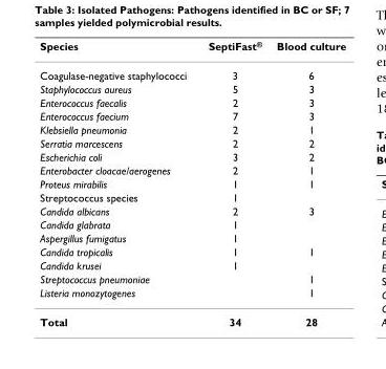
<table><thead><tr><td>Species</td><td>SeptiFast<sup>®</sup></td><td>Blood culture</td></tr></thead><tbody><tr><td>Coagulase-negative staphylococci</td><td>3</td><td>6</td></tr><tr><td>Staphylococcus aureus</td><td>5</td><td>3</td></tr><tr><td>Enterococcus faecalis</td><td>2</td><td>3</td></tr><tr><td>Enterococcus faecium</td><td>7</td><td>3</td></tr><tr><td>Klebsiella pneumonia</td><td>2</td><td>1</td></tr><tr><td>Serratia marcescens</td><td>2</td><td>2</td></tr><tr><td>Escherichia coli</td><td>3</td><td>2</td></tr><tr><td>Enterobacter cloacae/aerogenes</td><td>2</td><td>1</td></tr><tr><td>Proteus mirabilis</td><td>1</td><td>1</td></tr><tr><td>Streptococcus species</td><td>1</td><td></td></tr><tr><td>Candida albicans</td><td>2</td><td>3</td></tr><tr><td>Candida glabrata</td><td>1</td><td></td></tr><tr><td>Aspergillus fumigatus</td><td>1</td><td></td></tr><tr><td>Candida tropicalis</td><td>1</td><td>1</td></tr><tr><td>Candida krusei</td><td>1</td><td></td></tr><tr><td>Streptococcus pneumoniae</td><td></td><td>1</td></tr><tr><td>Listeria monozytogenes</td><td></td><td>1</td></tr><tr><td>Total</td><td>34</td><td>28</td></tr></tbody></table>